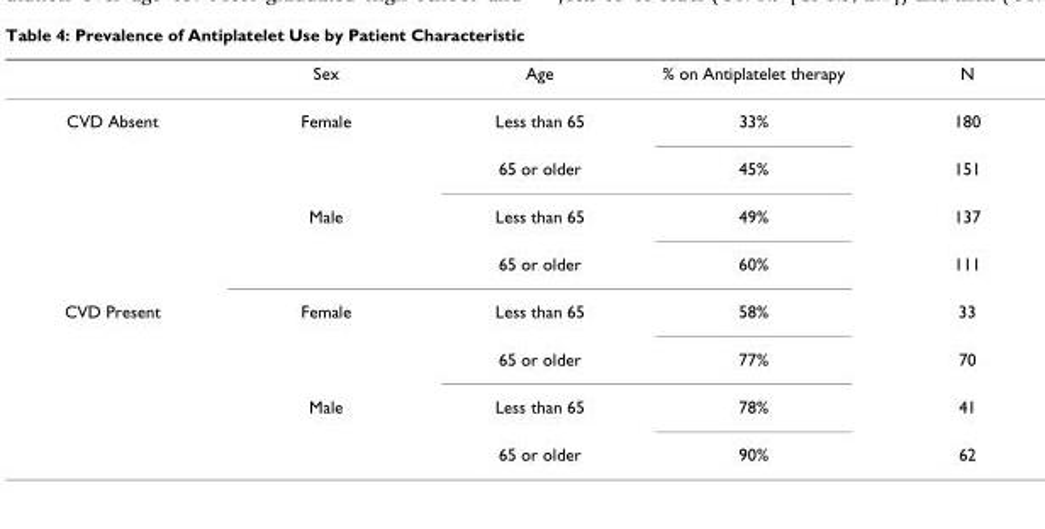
<table><thead><tr><td></td><td>Sex</td><td>Age</td><td>% on Antiplatelet therapy</td><td>N</td></tr></thead><tbody><tr><td rowspan="4">CVD Absent</td><td>Female</td><td>Less than 65</td><td>33%</td><td>180</td></tr><tr><td></td><td>65 or older</td><td>45%</td><td>151</td></tr><tr><td>Male</td><td>Less than 65</td><td>49%</td><td>137</td></tr><tr><td></td><td>65 or older</td><td>60%</td><td>111</td></tr><tr><td rowspan="4">CVD Present</td><td>Female</td><td>Less than 65</td><td>58%</td><td>33</td></tr><tr><td></td><td>65 or older</td><td>77%</td><td>70</td></tr><tr><td>Male</td><td>Less than 65</td><td>78%</td><td>41</td></tr><tr><td></td><td>65 or older</td><td>90%</td><td>62</td></tr></tbody></table>